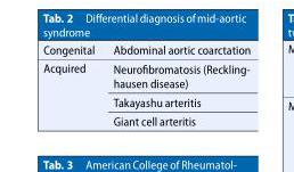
<table><tbody><tr><td>Congenital</td><td>Abdominal aortic coarctation</td></tr><tr><td rowspan="3">Acquired</td><td>Neurofibromatosis (Reckling- hausen disease)</td></tr><tr><td>Takayashu arteritis</td></tr><tr><td>Giant cell arteritis</td></tr></tbody></table>